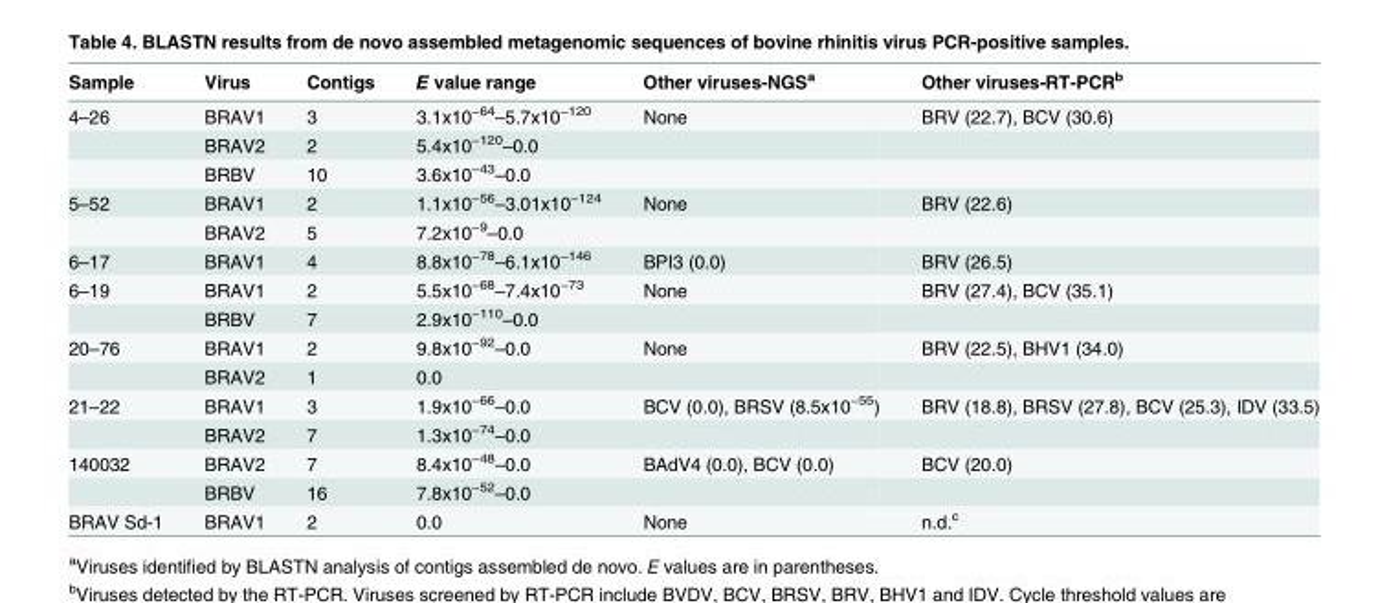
<table><thead><tr><td>Sample</td><td>Virus</td><td>Contigs</td><td>E value range</td><td>Other viruses-NGS<sup>a</sup></td><td>Other viruses-RT-PCR<sup>b</sup></td></tr></thead><tbody><tr><td rowspan="3">4–26</td><td>BRAV1</td><td>3</td><td>3.1x10<sup>−64</sup>–5.7x10<sup>−120</sup></td><td>None</td><td>BRV (22.7), BCV (30.6)</td></tr><tr><td>BRAV2</td><td>2</td><td>5.4x10<sup>−120</sup>–0.0</td><td></td><td></td></tr><tr><td>BRBV</td><td>10</td><td>3.6x10<sup>−43</sup>–0.0</td><td></td><td></td></tr><tr><td rowspan="2">5–52</td><td>BRAV1</td><td>2</td><td>1.1x10<sup>−56</sup>–3.01x10<sup>−124</sup></td><td>None</td><td>BRV (22.6)</td></tr><tr><td>BRAV2</td><td>5</td><td>7.2x10<sup>−9</sup>–0.0</td><td></td><td></td></tr><tr><td>6–17</td><td>BRAV1</td><td>4</td><td>8.8x10<sup>−78</sup>–6.1x10<sup>−146</sup></td><td>BPI3 (0.0)</td><td>BRV (26.5)</td></tr><tr><td rowspan="2">6–19</td><td>BRAV1</td><td>2</td><td>5.5x10<sup>−68</sup>–7.4x10<sup>−73</sup></td><td>None</td><td>BRV (27.4), BCV (35.1)</td></tr><tr><td>BRBV</td><td>7</td><td>2.9x10<sup>−110</sup>–0.0</td><td></td><td></td></tr><tr><td rowspan="2">20–76</td><td>BRAV1</td><td>2</td><td>9.8x10<sup>−92</sup>–0.0</td><td>None</td><td>BRV (22.5), BHV1 (34.0)</td></tr><tr><td>BRAV2</td><td>1</td><td>0.0</td><td></td><td></td></tr><tr><td rowspan="2">21–22</td><td>BRAV1</td><td>3</td><td>1.9x10<sup>−66</sup>–0.0</td><td>BCV (0.0), BRSV (8.5x10<sup>−55</sup>)</td><td>BRV (18.8), BRSV (27.8), BCV (25.3), IDV (33.5)</td></tr><tr><td>BRAV2</td><td>7</td><td>1.3x10<sup>−74</sup>–0.0</td><td></td><td></td></tr><tr><td rowspan="2">140032</td><td>BRAV2</td><td>7</td><td>8.4x10<sup>−48</sup>–0.0</td><td>BAdV4 (0.0), BCV (0.0)</td><td>BCV (20.0)</td></tr><tr><td>BRBV</td><td>16</td><td>7.8x10<sup>−52</sup>–0.0</td><td></td><td></td></tr><tr><td>BRAV Sd-1</td><td>BRAV1</td><td>2</td><td>0.0</td><td>None</td><td>n.d.<sup>c</sup></td></tr></tbody></table>